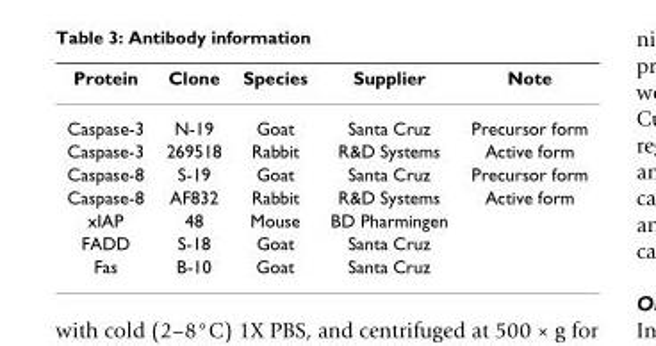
<table><thead><tr><td>Protein</td><td>Clone</td><td>Species</td><td>Supplier</td><td>Note</td></tr></thead><tbody><tr><td>Caspase-3</td><td>N-19</td><td>Goat</td><td>Santa Cruz</td><td>Precursor form</td></tr><tr><td>Caspase-3</td><td>269518</td><td>Rabbit</td><td>R&amp;D Systems</td><td>Active form</td></tr><tr><td>Caspase-8</td><td>S-19</td><td>Goat</td><td>Santa Cruz</td><td>Precursor form</td></tr><tr><td>Caspase-8</td><td>AF832</td><td>Rabbit</td><td>R&amp;D Systems</td><td>Active form</td></tr><tr><td>xIAP</td><td>48</td><td>Mouse</td><td>BD Pharmingen</td><td></td></tr><tr><td>FADD</td><td>S-18</td><td>Goat</td><td>Santa Cruz</td><td></td></tr><tr><td>Fas</td><td>B-10</td><td>Goat</td><td>Santa Cruz</td><td></td></tr></tbody></table>